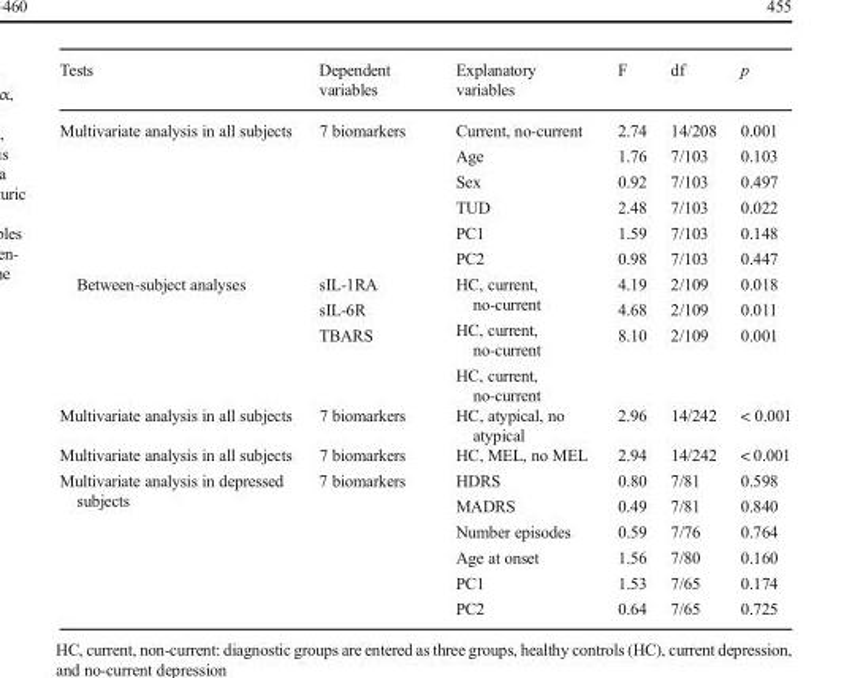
<table><thead><tr><td>Tests</td><td>Dependent variables</td><td>Explanatory variables</td><td>F</td><td>df</td><td>p</td></tr></thead><tbody><tr><td>Multivariate analysis in all subjects</td><td>7 biomarkers</td><td>Current, no-current Age Sex TUD PC1 PC2</td><td>2.74 1.76 0.92 2.48 1.59 0.98</td><td>14/208 7/103 7/103 7/103 7/103 7/103</td><td>0.001 0.103 0.497 0.022 0.148 0.447</td></tr><tr><td>Between-subject analyses</td><td>sIL-1RA sIL-6R TBARS</td><td>HC, current, no-current HC, current, no-current HC, current, no-current</td><td>4.19 4.68 8.10</td><td>2/109 2/109 2/109</td><td>0.018 0.011 0.001</td></tr><tr><td>Multivariate analysis in all subjects</td><td>7 biomarkers</td><td>HC, atypical, no atypical</td><td>2.96</td><td>14/242</td><td>&lt; 0.001</td></tr><tr><td>Multivariate analysis in all subjects</td><td>7 biomarkers</td><td>HC, MEL, no MEL</td><td>2.94</td><td>14/242</td><td>&lt; 0.001</td></tr><tr><td>Multivariate analysis in depressed subjects</td><td>7 biomarkers</td><td>HDRS MADRS Number episodes Age at onset PC1 PC2</td><td>0.80 0.49 0.59 1.56 1.53 0.64</td><td>7/81 7/81 7/76 7/80 7/65 7/65</td><td>0.598 0.840 0.764 0.160 0.174 0.725</td></tr></tbody></table>